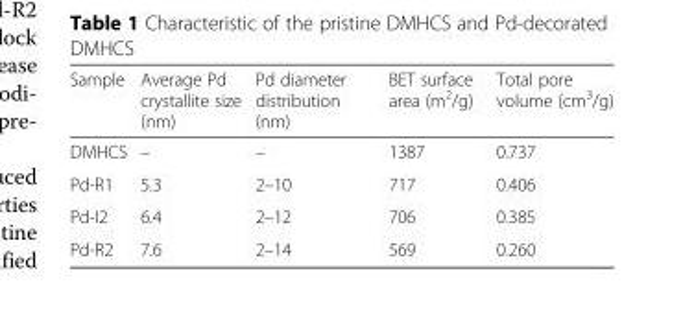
<table><thead><tr><td>Sample</td><td>Average Pd crystallite size (nm)</td><td>Pd diameter distribution (nm)</td><td>BET surface area (m<sup>2</sup>/g)</td><td>Total pore volume (cm<sup>3</sup>/g)</td></tr></thead><tbody><tr><td>DMHCS</td><td>–</td><td>–</td><td>1387</td><td>0.737</td></tr><tr><td>Pd-R1</td><td>5.3</td><td>2–10</td><td>717</td><td>0.406</td></tr><tr><td>Pd-I2</td><td>6.4</td><td>2–12</td><td>706</td><td>0.385</td></tr><tr><td>Pd-R2</td><td>7.6</td><td>2–14</td><td>569</td><td>0.260</td></tr></tbody></table>